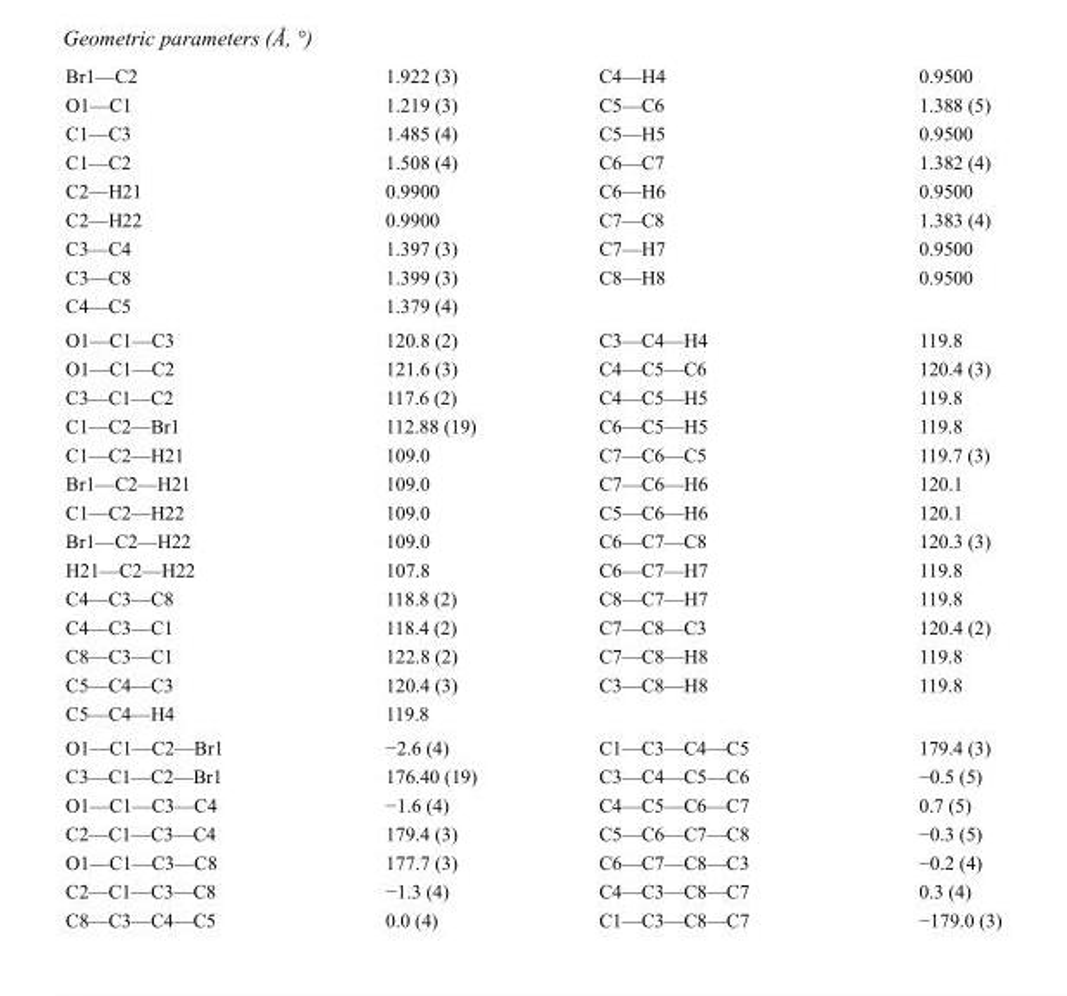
<table><tbody><tr><td>Br1—C2</td><td>1.922 (3)</td><td>C4—H4</td><td>0.9500</td></tr><tr><td>O1—C1</td><td>1.219 (3)</td><td>C5—C6</td><td>1.388 (5)</td></tr><tr><td>C1—C3</td><td>1.485 (4)</td><td>C5—H5</td><td>0.9500</td></tr><tr><td>C1—C2</td><td>1.508 (4)</td><td>C6—C7</td><td>1.382 (4)</td></tr><tr><td>C2—H21</td><td>0.9900</td><td>C6—H6</td><td>0.9500</td></tr><tr><td>C2—H22</td><td>0.9900</td><td>C7—C8</td><td>1.383 (4)</td></tr><tr><td>C3—C4</td><td>1.397 (3)</td><td>C7—H7</td><td>0.9500</td></tr><tr><td>C3—C8</td><td>1.399 (3)</td><td>C8—H8</td><td>0.9500</td></tr><tr><td>C4—C5</td><td>1.379 (4)</td><td></td><td></td></tr><tr><td>O1—C1—C3</td><td>120.8 (2)</td><td>C3—C4—H4</td><td>119.8</td></tr><tr><td>O1—C1—C2</td><td>121.6 (3)</td><td>C4—C5—C6</td><td>120.4 (3)</td></tr><tr><td>C3—C1—C2</td><td>117.6 (2)</td><td>C4—C5—H5</td><td>119.8</td></tr><tr><td>C1—C2—Br1</td><td>112.88 (19)</td><td>C6—C5—H5</td><td>119.8</td></tr><tr><td>C1—C2—H21</td><td>109.0</td><td>C7—C6—C5</td><td>119.7 (3)</td></tr><tr><td>Br1—C2—H21</td><td>109.0</td><td>C7—C6—H6</td><td>120.1</td></tr><tr><td>C1—C2—H22</td><td>109.0</td><td>C5—C6—H6</td><td>120.1</td></tr><tr><td>Br1—C2—H22</td><td>109.0</td><td>C6—C7—C8</td><td>120.3 (3)</td></tr><tr><td>H21—C2—H22</td><td>107.8</td><td>C6—C7—H7</td><td>119.8</td></tr><tr><td>C4—C3—C8</td><td>118.8 (2)</td><td>C8—C7—H7</td><td>119.8</td></tr><tr><td>C4—C3—C1</td><td>118.4 (2)</td><td>C7—C8—C3</td><td>120.4 (2)</td></tr><tr><td>C8—C3—C1</td><td>122.8 (2)</td><td>C7—C8—H8</td><td>119.8</td></tr><tr><td>C5—C4—C3</td><td>120.4 (3)</td><td>C3—C8—H8</td><td>119.8</td></tr><tr><td>C5—C4—H4</td><td>119.8</td><td></td><td></td></tr><tr><td>O1—C1—C2—Br1</td><td>−2.6 (4)</td><td>C1—C3—C4—C5</td><td>179.4 (3)</td></tr><tr><td>C3—C1—C2—Br1</td><td>176.40 (19)</td><td>C3—C4—C5—C6</td><td>−0.5 (5)</td></tr><tr><td>O1—C1—C3—C4</td><td>−1.6 (4)</td><td>C4—C5—C6—C7</td><td>0.7 (5)</td></tr><tr><td>C2—C1—C3—C4</td><td>179.4 (3)</td><td>C5—C6—C7—C8</td><td>−0.3 (5)</td></tr><tr><td>O1—C1—C3—C8</td><td>177.7 (3)</td><td>C6—C7—C8—C3</td><td>−0.2 (4)</td></tr><tr><td>C2—C1—C3—C8</td><td>−1.3 (4)</td><td>C4—C3—C8—C7</td><td>0.3 (4)</td></tr><tr><td>C8—C3—C4—C5</td><td>0.0 (4)</td><td>C1—C3—C8—C7</td><td>−179.0 (3)</td></tr></tbody></table>